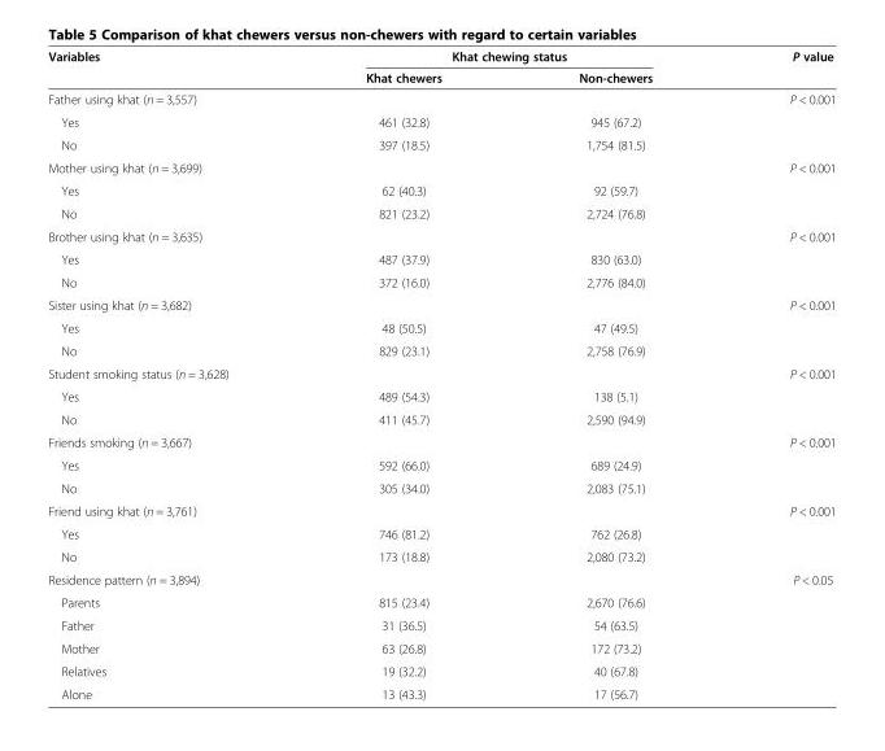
<table><thead><tr><td rowspan="2">Variables</td><td colspan="2">Khat chewing status</td><td rowspan="2">P value</td></tr><tr><td>Khat chewers</td><td>Non-chewers</td></tr></thead><tbody><tr><td colspan="3">Father using khat (n = 3,557)</td><td rowspan="3">P &lt; 0.001</td></tr><tr><td>Yes</td><td>461 (32.8)</td><td>945 (67.2)</td></tr><tr><td>No</td><td>397 (18.5)</td><td>1,754 (81.5)</td></tr><tr><td colspan="3">Mother using khat (n = 3,699)</td><td rowspan="3">P &lt; 0.001</td></tr><tr><td>Yes</td><td>62 (40.3)</td><td>92 (59.7)</td></tr><tr><td>No</td><td>821 (23.2)</td><td>2,724 (76.8)</td></tr><tr><td colspan="3">Brother using khat (n = 3,635)</td><td rowspan="3">P &lt; 0.001</td></tr><tr><td>Yes</td><td>487 (37.9)</td><td>830 (63.0)</td></tr><tr><td>No</td><td>372 (16.0)</td><td>2,776 (84.0)</td></tr><tr><td colspan="3">Sister using khat (n = 3,682)</td><td rowspan="3">P &lt; 0.001</td></tr><tr><td>Yes</td><td>48 (50.5)</td><td>47 (49.5)</td></tr><tr><td>No</td><td>829 (23.1)</td><td>2,758 (76.9)</td></tr><tr><td colspan="3">Student smoking status (n = 3,628)</td><td rowspan="3">P &lt; 0.001</td></tr><tr><td>Yes</td><td>489 (54.3)</td><td>138 (5.1)</td></tr><tr><td>No</td><td>411 (45.7)</td><td>2,590 (94.9)</td></tr><tr><td colspan="3">Friends smoking (n = 3,667)</td><td rowspan="3">P &lt; 0.001</td></tr><tr><td>Yes</td><td>592 (66.0)</td><td>689 (24.9)</td></tr><tr><td>No</td><td>305 (34.0)</td><td>2,083 (75.1)</td></tr><tr><td colspan="3">Friend using khat (n = 3,761)</td><td rowspan="3">P &lt; 0.001</td></tr><tr><td>Yes</td><td>746 (81.2)</td><td>762 (26.8)</td></tr><tr><td>No</td><td>173 (18.8)</td><td>2,080 (73.2)</td></tr><tr><td colspan="3">Residence pattern (n = 3,894)</td><td rowspan="6">P &lt; 0.05</td></tr><tr><td>Parents</td><td>815 (23.4)</td><td>2,670 (76.6)</td></tr><tr><td>Father</td><td>31 (36.5)</td><td>54 (63.5)</td></tr><tr><td>Mother</td><td>63 (26.8)</td><td>172 (73.2)</td></tr><tr><td>Relatives</td><td>19 (32.2)</td><td>40 (67.8)</td></tr><tr><td>Alone</td><td>13 (43.3)</td><td>17 (56.7)</td></tr></tbody></table>